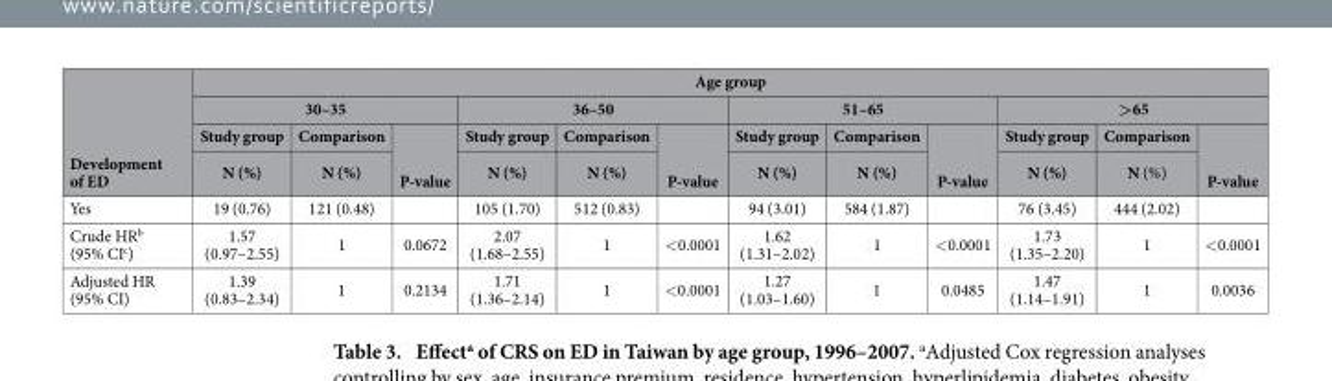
<table><thead><tr><td rowspan="4">Development of ED</td><td colspan="12">Age group</td></tr><tr><td colspan="3">30–35</td><td colspan="3">36–50</td><td colspan="3">51–65</td><td colspan="3">&gt;65</td></tr><tr><td rowspan="2">Study group N (%)</td><td rowspan="2">Comparison N (%)</td><td rowspan="2">P-value</td><td rowspan="2">Study group N (%)</td><td rowspan="2">Comparison N (%)</td><td rowspan="2">P-value</td><td rowspan="2">Study group N (%)</td><td rowspan="2">Comparison N (%)</td><td rowspan="2">P-value</td><td rowspan="2">Study group N (%)</td><td rowspan="2">Comparison N (%)</td><td rowspan="2">P-value</td></tr><tr></tr></thead><tbody><tr><td>Yes</td><td>19 (0.76)</td><td>121 (0.48)</td><td></td><td>105 (1.70)</td><td>512 (0.83)</td><td></td><td>94 (3.01)</td><td>584 (1.87)</td><td></td><td>76 (3.45)</td><td>444 (2.02)</td><td></td></tr><tr><td>Crude HR<sup>b</sup> (95% CI<sup>c</sup>)</td><td>1.57 (0.97–2.55)</td><td>1</td><td>0.0672</td><td>2.07 (1.68–2.55)</td><td>1</td><td>&lt; 0.0001</td><td>1.62 (1.31–2.02)</td><td>1</td><td>&lt; 0.0001</td><td>1.73 (1.35–2.20)</td><td>1</td><td>&lt; 0.0001</td></tr><tr><td>Adjusted HR (95% CI)</td><td>1.39 (0.83–2.34)</td><td>1</td><td>0.2134</td><td>1.71 (1.36–2.14)</td><td>1</td><td>&lt; 0.0001</td><td>1.27 (1.03–1.60)</td><td>1</td><td>0.0485</td><td>1.47 (1.14–1.91)</td><td>1</td><td>0.0036</td></tr></tbody></table>